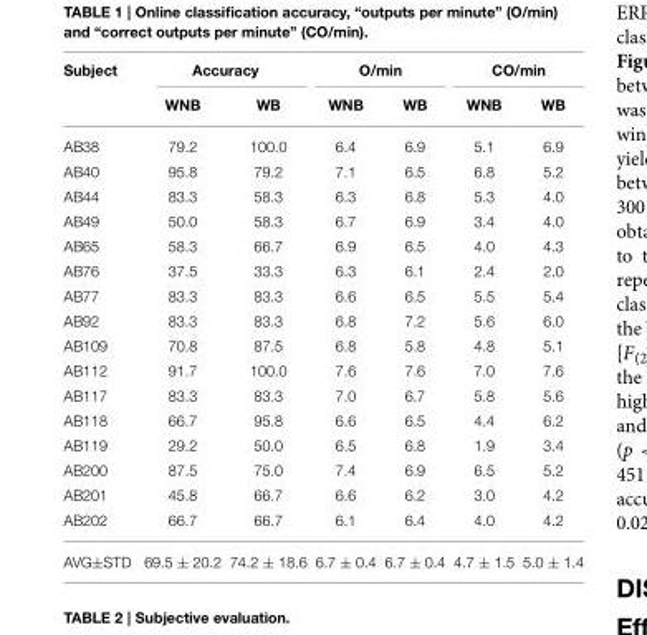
<table><thead><tr><td rowspan="2">Subject</td><td colspan="2">Accuracy</td><td colspan="2">O/min</td><td colspan="2">CO/min</td></tr><tr><td>WNB</td><td>WB</td><td>WNB</td><td>WB</td><td>WNB</td><td>WB</td></tr></thead><tbody><tr><td>AB38</td><td>79.2</td><td>100.0</td><td>6.4</td><td>6.9</td><td>5.1</td><td>6.9</td></tr><tr><td>AB40</td><td>95.8</td><td>79.2</td><td>7.1</td><td>6.5</td><td>6.8</td><td>5.2</td></tr><tr><td>AB44</td><td>83.3</td><td>58.3</td><td>6.3</td><td>6.8</td><td>5.3</td><td>4.0</td></tr><tr><td>AB49</td><td>50.0</td><td>58.3</td><td>6.7</td><td>6.9</td><td>3.4</td><td>4.0</td></tr><tr><td>AB65</td><td>58.3</td><td>66.7</td><td>6.9</td><td>6.5</td><td>4.0</td><td>4.3</td></tr><tr><td>AB76</td><td>37.5</td><td>33.3</td><td>6.3</td><td>6.1</td><td>2.4</td><td>2.0</td></tr><tr><td>AB77</td><td>83.3</td><td>83.3</td><td>6.6</td><td>6.5</td><td>5.5</td><td>5.4</td></tr><tr><td>AB92</td><td>83.3</td><td>83.3</td><td>6.8</td><td>7.2</td><td>5.6</td><td>6.0</td></tr><tr><td>AB109</td><td>70.8</td><td>87.5</td><td>6.8</td><td>5.8</td><td>4.8</td><td>5.1</td></tr><tr><td>AB112</td><td>91.7</td><td>100.0</td><td>7.6</td><td>7.6</td><td>7.0</td><td>7.6</td></tr><tr><td>AB117</td><td>83.3</td><td>83.3</td><td>7.0</td><td>6.7</td><td>5.8</td><td>5.6</td></tr><tr><td>AB118</td><td>66.7</td><td>95.8</td><td>6.6</td><td>6.5</td><td>4.4</td><td>6.2</td></tr><tr><td>AB119</td><td>29.2</td><td>50.0</td><td>6.5</td><td>6.8</td><td>1.9</td><td>3.4</td></tr><tr><td>AB200</td><td>87.5</td><td>75.0</td><td>7.4</td><td>6.9</td><td>6.5</td><td>5.2</td></tr><tr><td>AB201</td><td>45.8</td><td>66.7</td><td>6.6</td><td>6.2</td><td>3.0</td><td>4.2</td></tr><tr><td>AB202</td><td>66.7</td><td>66.7</td><td>6.1</td><td>6.4</td><td>4.0</td><td>4.2</td></tr><tr><td>AVG±STD</td><td>69.5 ± 20.2</td><td>74.2 ± 18.6</td><td>6.7 ± 0.4</td><td>6.7 ± 0.4</td><td>4.7 ± 1.5</td><td>5.0 ± 1.4</td></tr></tbody></table>